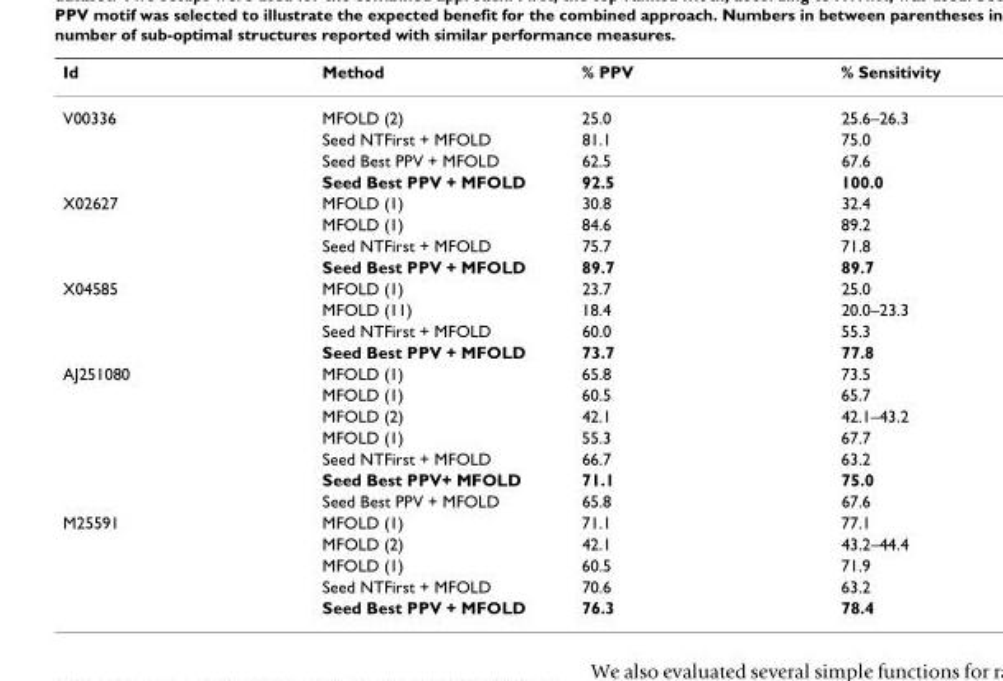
<table><thead><tr><td>Id</td><td>Method</td><td>% PPV</td><td>% Sensitivity</td></tr></thead><tbody><tr><td rowspan="4">V00336</td><td>MFOLD (2)</td><td>25.0</td><td>25.6–26.3</td></tr><tr><td>Seed NTFirst + MFOLD</td><td>81.1</td><td>75.0</td></tr><tr><td>Seed Best PPV + MFOLD</td><td>62.5</td><td>67.6</td></tr><tr><td>Seed Best PPV + MFOLD</td><td>92.5</td><td>100.0</td></tr><tr><td rowspan="4">X02627</td><td>MFOLD (1)</td><td>30.8</td><td>32.4</td></tr><tr><td>MFOLD (1)</td><td>84.6</td><td>89.2</td></tr><tr><td>Seed NTFirst + MFOLD</td><td>75.7</td><td>71.8</td></tr><tr><td>Seed Best PPV + MFOLD</td><td>89.7</td><td>89.7</td></tr><tr><td rowspan="4">X04585</td><td>MFOLD (1)</td><td>23.7</td><td>25.0</td></tr><tr><td>MFOLD (11)</td><td>18.4</td><td>20.0–23.3</td></tr><tr><td>Seed NTFirst + MFOLD</td><td>60.0</td><td>55.3</td></tr><tr><td>Seed Best PPV + MFOLD</td><td>73.7</td><td>77.8</td></tr><tr><td rowspan="7">AJ251080</td><td>MFOLD (1)</td><td>65.8</td><td>73.5</td></tr><tr><td>MFOLD (1)</td><td>60.5</td><td>65.7</td></tr><tr><td>MFOLD (2)</td><td>42.1</td><td>42.1–43.2</td></tr><tr><td>MFOLD (1)</td><td>55.3</td><td>67.7</td></tr><tr><td>Seed NTFirst + MFOLD</td><td>66.7</td><td>63.2</td></tr><tr><td>Seed Best PPV+ MFOLD</td><td>71.1</td><td>75.0</td></tr><tr><td>Seed Best PPV + MFOLD</td><td>65.8</td><td>67.6</td></tr><tr><td rowspan="5">M25591</td><td>MFOLD (1)</td><td>71.1</td><td>77.1</td></tr><tr><td>MFOLD (2)</td><td>42.1</td><td>43.2–44.4</td></tr><tr><td>MFOLD (1)</td><td>60.5</td><td>71.9</td></tr><tr><td>Seed NTFirst + MFOLD</td><td>70.6</td><td>63.2</td></tr><tr><td>Seed Best PPV + MFOLD</td><td>76.3</td><td>78.4</td></tr></tbody></table>